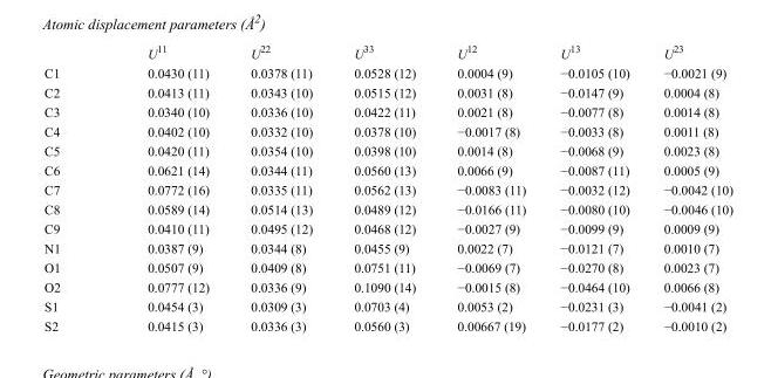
<table><thead><tr><td></td><td>U<sup>11</sup></td><td>U<sup>22</sup></td><td>U<sup>33</sup></td><td>U<sup>12</sup></td><td>U<sup>13</sup></td><td>U<sup>23</sup></td></tr></thead><tbody><tr><td>C1</td><td>0.0430 (11)</td><td>0.0378 (11)</td><td>0.0528 (12)</td><td>0.0004 (9)</td><td>−0.0105 (10)</td><td>−0.0021 (9)</td></tr><tr><td>C2</td><td>0.0413 (11)</td><td>0.0343 (10)</td><td>0.0515 (12)</td><td>0.0031 (8)</td><td>−0.0147 (9)</td><td>0.0004 (8)</td></tr><tr><td>C3</td><td>0.0340 (10)</td><td>0.0336 (10)</td><td>0.0422 (11)</td><td>0.0021 (8)</td><td>−0.0077 (8)</td><td>0.0014 (8)</td></tr><tr><td>C4</td><td>0.0402 (10)</td><td>0.0332 (10)</td><td>0.0378 (10)</td><td>−0.0017 (8)</td><td>−0.0033 (8)</td><td>0.0011 (8)</td></tr><tr><td>C5</td><td>0.0420 (11)</td><td>0.0354 (10)</td><td>0.0398 (10)</td><td>0.0014 (8)</td><td>−0.0068 (9)</td><td>0.0023 (8)</td></tr><tr><td>C6</td><td>0.0621 (14)</td><td>0.0344 (11)</td><td>0.0560 (13)</td><td>0.0066 (9)</td><td>−0.0087 (11)</td><td>0.0005 (9)</td></tr><tr><td>C7</td><td>0.0772 (16)</td><td>0.0335 (11)</td><td>0.0562 (13)</td><td>−0.0083 (11)</td><td>−0.0032 (12)</td><td>−0.0042 (10)</td></tr><tr><td>C8</td><td>0.0589 (14)</td><td>0.0514 (13)</td><td>0.0489 (12)</td><td>−0.0166 (11)</td><td>−0.0080 (10)</td><td>−0.0046 (10)</td></tr><tr><td>C9</td><td>0.0410 (11)</td><td>0.0495 (12)</td><td>0.0468 (12)</td><td>−0.0027 (9)</td><td>−0.0099 (9)</td><td>0.0009 (9)</td></tr><tr><td>N1</td><td>0.0387 (9)</td><td>0.0344 (8)</td><td>0.0455 (9)</td><td>0.0022 (7)</td><td>−0.0121 (7)</td><td>0.0010 (7)</td></tr><tr><td>O1</td><td>0.0507 (9)</td><td>0.0409 (8)</td><td>0.0751 (11)</td><td>−0.0069 (7)</td><td>−0.0270 (8)</td><td>0.0023 (7)</td></tr><tr><td>O2</td><td>0.0777 (12)</td><td>0.0336 (9)</td><td>0.1090 (14)</td><td>−0.0015 (8)</td><td>−0.0464 (10)</td><td>0.0066 (8)</td></tr><tr><td>S1</td><td>0.0454 (3)</td><td>0.0309 (3)</td><td>0.0703 (4)</td><td>0.0053 (2)</td><td>−0.0231 (3)</td><td>−0.0041 (2)</td></tr><tr><td>S2</td><td>0.0415 (3)</td><td>0.0336 (3)</td><td>0.0560 (3)</td><td>0.00667 (19)</td><td>−0.0177 (2)</td><td>−0.0010 (2)</td></tr></tbody></table>